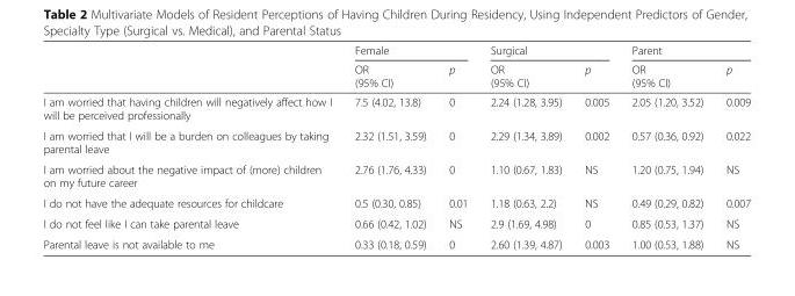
<table><thead><tr><td rowspan="2"></td><td colspan="2">Female</td><td colspan="2">Surgical</td><td colspan="2">Parent</td></tr><tr><td>OR (95% CI)</td><td>p</td><td>OR (95% CI)</td><td>p</td><td>OR (95% CI)</td><td>p</td></tr></thead><tbody><tr><td>I am worried that having children will negatively affect how I will be perceived professionally</td><td>7.5 (4.02, 13.8)</td><td>0</td><td>2.24 (1.28, 3.95)</td><td>0.005</td><td>2.05 (1.20, 3.52)</td><td>0.009</td></tr><tr><td>I am worried that I will be a burden on colleagues by taking parental leave</td><td>2.32 (1.51, 3.59)</td><td>0</td><td>2.29 (1.34, 3.89)</td><td>0.002</td><td>0.57 (0.36, 0.92)</td><td>0.022</td></tr><tr><td>I am worried about the negative impact of (more) children on my future career</td><td>2.76 (1.76, 4.33)</td><td>0</td><td>1.10 (0.67, 1.83)</td><td>NS</td><td>1.20 (0.75, 1.94)</td><td>NS</td></tr><tr><td>I do not have the adequate resources for childcare</td><td>0.5 (0.30, 0.85)</td><td>0.01</td><td>1.18 (0.63, 2.2)</td><td>NS</td><td>0.49 (0.29, 0.82)</td><td>0.007</td></tr><tr><td>I do not feel like I can take parental leave</td><td>0.66 (0.42, 1.02)</td><td>NS</td><td>2.9 (1.69, 4.98)</td><td>0</td><td>0.85 (0.53, 1.37)</td><td>NS</td></tr><tr><td>Parental leave is not available to me</td><td>0.33 (0.18, 0.59)</td><td>0</td><td>2.60 (1.39, 4.87)</td><td>0.003</td><td>1.00 (0.53, 1.88)</td><td>NS</td></tr></tbody></table>